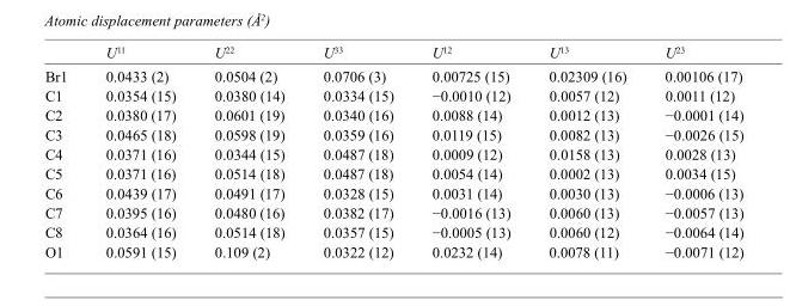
<table><thead><tr><td></td><td>U<sup>11</sup></td><td>U<sup>22</sup></td><td>U<sup>33</sup></td><td>U<sup>12</sup></td><td>U<sup>13</sup></td><td>U<sup>23</sup></td></tr></thead><tbody><tr><td>Br1</td><td>0.0433 (2)</td><td>0.0504 (2)</td><td>0.0706 (3)</td><td>0.00725 (15)</td><td>0.02309 (16)</td><td>0.00106 (17)</td></tr><tr><td>C1</td><td>0.0354 (15)</td><td>0.0380 (14)</td><td>0.0334 (15)</td><td>−0.0010 (12)</td><td>0.0057 (12)</td><td>0.0011 (12)</td></tr><tr><td>C2</td><td>0.0380 (17)</td><td>0.0601 (19)</td><td>0.0340 (16)</td><td>0.0088 (14)</td><td>0.0012 (13)</td><td>−0.0001 (14)</td></tr><tr><td>C3</td><td>0.0465 (18)</td><td>0.0598 (19)</td><td>0.0359 (16)</td><td>0.0119 (15)</td><td>0.0082 (13)</td><td>−0.0026 (15)</td></tr><tr><td>C4</td><td>0.0371 (16)</td><td>0.0344 (15)</td><td>0.0487 (18)</td><td>0.0009 (12)</td><td>0.0158 (13)</td><td>0.0028 (13)</td></tr><tr><td>C5</td><td>0.0371 (16)</td><td>0.0514 (18)</td><td>0.0487 (18)</td><td>0.0054 (14)</td><td>0.0002 (13)</td><td>0.0034 (15)</td></tr><tr><td>C6</td><td>0.0439 (17)</td><td>0.0491 (17)</td><td>0.0328 (15)</td><td>0.0031 (14)</td><td>0.0030 (13)</td><td>−0.0006 (13)</td></tr><tr><td>C7</td><td>0.0395 (16)</td><td>0.0480 (16)</td><td>0.0382 (17)</td><td>−0.0016 (13)</td><td>0.0060 (13)</td><td>−0.0057 (13)</td></tr><tr><td>C8</td><td>0.0364 (16)</td><td>0.0514 (18)</td><td>0.0357 (15)</td><td>−0.0005 (13)</td><td>0.0060 (12)</td><td>−0.0064 (14)</td></tr><tr><td>O1</td><td>0.0591 (15)</td><td>0.109 (2)</td><td>0.0322 (12)</td><td>0.0232 (14)</td><td>0.0078 (11)</td><td>−0.0071 (12)</td></tr></tbody></table>